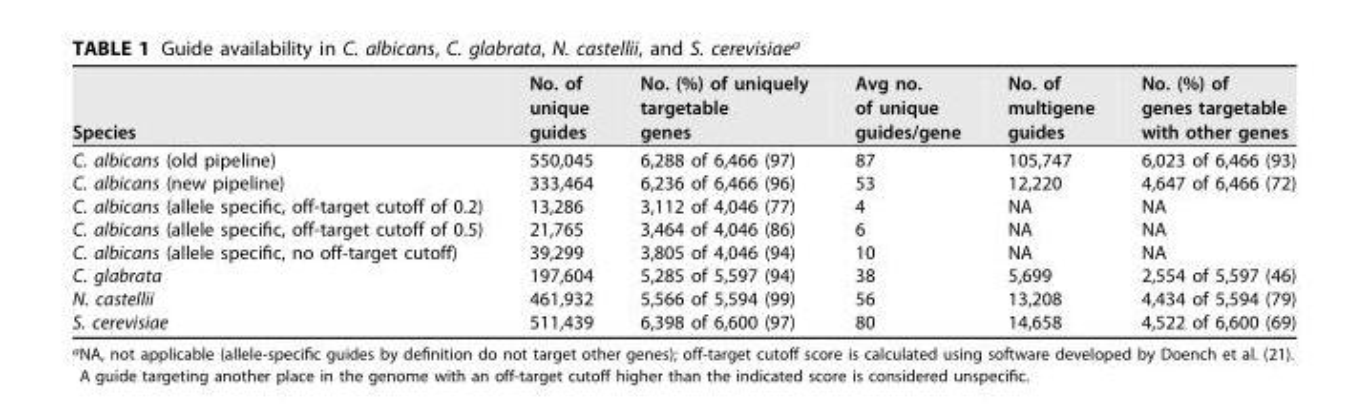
<table><thead><tr><td>Species</td><td>No. of unique guides</td><td>No. (%) of uniquely targetable genes</td><td>Avg no. of unique guides/gene</td><td>No. of multigene guides</td><td>No. (%) of genes targetable with other genes</td></tr></thead><tbody><tr><td>C. albicans (old pipeline)</td><td>550,045</td><td>6,288 of 6,466 (97)</td><td>87</td><td>105,747</td><td>6,023 of 6,466 (93)</td></tr><tr><td>C. albicans (new pipeline)</td><td>333,464</td><td>6,236 of 6,466 (96)</td><td>53</td><td>12,220</td><td>4,647 of 6,466 (72)</td></tr><tr><td>C. albicans (allele specific, off-target cutoff of 0.2)</td><td>13,286</td><td>3,112 of 4,046 (77)</td><td>4</td><td>NA</td><td>NA</td></tr><tr><td>C. albicans (allele specific, off-target cutoff of 0.5)</td><td>21,765</td><td>3,464 of 4,046 (86)</td><td>6</td><td>NA</td><td>NA</td></tr><tr><td>C. albicans (allele specific, no off-target cutoff)</td><td>39,299</td><td>3,805 of 4,046 (94)</td><td>10</td><td>NA</td><td>NA</td></tr><tr><td>C. glabrata</td><td>197,604</td><td>5,285 of 5,597 (94)</td><td>38</td><td>5,699</td><td>2,554 of 5,597 (46)</td></tr><tr><td>N. castellii</td><td>461,932</td><td>5,566 of 5,594 (99)</td><td>56</td><td>13,208</td><td>4,434 of 5,594 (79)</td></tr><tr><td>S. cerevisiae</td><td>511,439</td><td>6,398 of 6,600 (97)</td><td>80</td><td>14,658</td><td>4,522 of 6,600 (69)</td></tr></tbody></table>